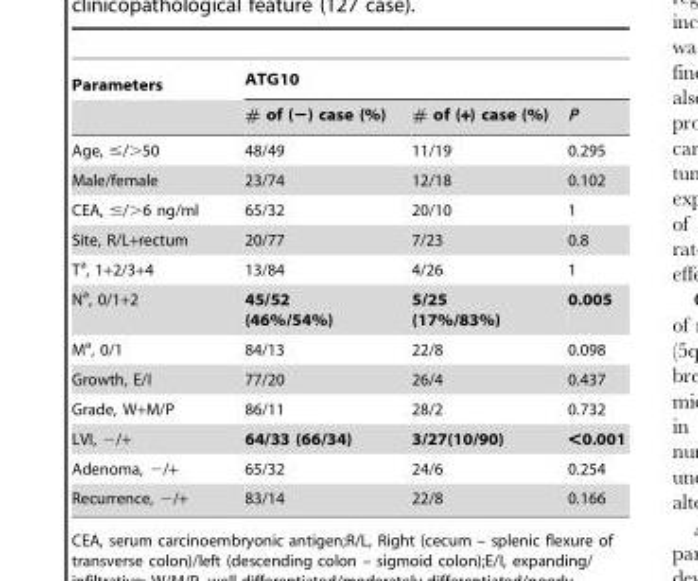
<table><thead><tr><td rowspan="2">Parameters</td><td colspan="3">ATG10</td></tr><tr><td># of (−) case (%)</td><td># of (+) case (%)</td><td>P</td></tr></thead><tbody><tr><td>Age, ≤/&gt;50</td><td>48/49</td><td>11/19</td><td>0.295</td></tr><tr><td>Male/female</td><td>23/74</td><td>12/18</td><td>0.102</td></tr><tr><td>CEA, ≤/&gt;6 ng/ml</td><td>65/32</td><td>20/10</td><td>1</td></tr><tr><td>Site, R/L+rectum</td><td>20/77</td><td>7/23</td><td>0.8</td></tr><tr><td>T<sup>a</sup>, 1+2/3+4</td><td>13/84</td><td>4/26</td><td>1</td></tr><tr><td>N<sup>a</sup>, 0/1+2</td><td>45/52 (46%/54%)</td><td>5/25 (17%/83%)</td><td>0.005</td></tr><tr><td>M<sup>a</sup>, 0/1</td><td>84/13</td><td>22/8</td><td>0.098</td></tr><tr><td>Growth, E/I</td><td>77/20</td><td>26/4</td><td>0.437</td></tr><tr><td>Grade, W+M/P</td><td>86/11</td><td>28/2</td><td>0.732</td></tr><tr><td>LVI, −/+</td><td>64/33 (66/34)</td><td>3/27(10/90)</td><td>&lt;0.001</td></tr><tr><td>Adenoma, −/+</td><td>65/32</td><td>24/6</td><td>0.254</td></tr><tr><td>Recurrence, −/+</td><td>83/14</td><td>22/8</td><td>0.166</td></tr></tbody></table>